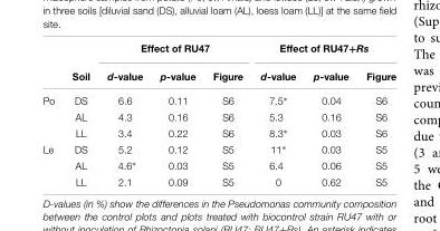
<table><thead><tr><td rowspan="2"></td><td rowspan="2">Soil</td><td colspan="3">Effect of RU47</td><td colspan="3">Effect of RU47+Rs</td></tr><tr><td>d-value</td><td>p-value</td><td>Figure</td><td>d-value</td><td>p-value</td><td>Figure</td></tr></thead><tbody><tr><td rowspan="3">Po</td><td>DS</td><td>6.6</td><td>0.11</td><td>S6</td><td>7.5∗</td><td>0.04</td><td>S6</td></tr><tr><td>AL</td><td>4.3</td><td>0.16</td><td>S6</td><td>5.3</td><td>0.16</td><td>S6</td></tr><tr><td>LL</td><td>3.4</td><td>0.22</td><td>S6</td><td>8.3∗</td><td>0.03</td><td>S6</td></tr><tr><td rowspan="3">Le</td><td>DS</td><td>5.2</td><td>0.12</td><td>S5</td><td>11∗</td><td>0.03</td><td>S5</td></tr><tr><td>AL</td><td>4.6∗</td><td>0.03</td><td>S5</td><td>6.4</td><td>0.06</td><td>S5</td></tr><tr><td>LL</td><td>2.1</td><td>0.09</td><td>S5</td><td>0</td><td>0.62</td><td>S5</td></tr></tbody></table>